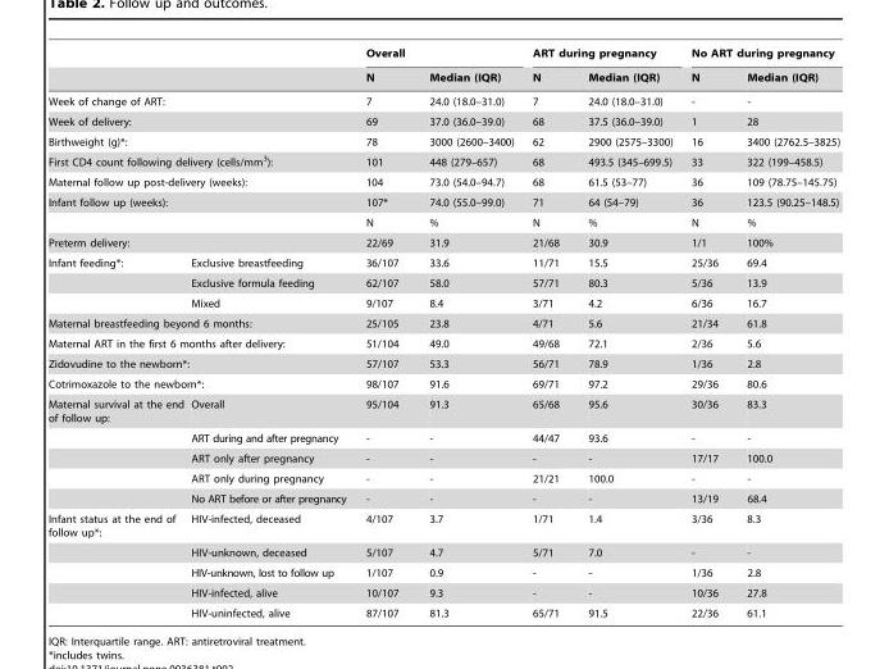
<table><thead><tr><td rowspan="2"></td><td rowspan="2"></td><td colspan="2">Overall</td><td colspan="2">ART during pregnancy</td><td colspan="2">No ART during pregnancy</td></tr><tr><td>N</td><td>Median (IQR)</td><td>N</td><td>Median (IQR)</td><td>N</td><td>Median (IQR)</td></tr></thead><tbody><tr><td colspan="2">Week of change of ART:</td><td>7</td><td>24.0 (18.0–31.0)</td><td>7</td><td>24.0 (18.0–31.0)</td><td>-</td><td>-</td></tr><tr><td colspan="2">Week of delivery:</td><td>69</td><td>37.0 (36.0–39.0)</td><td>68</td><td>37.5 (36.0–39.0)</td><td>1</td><td>28</td></tr><tr><td colspan="2">Birthweight (g)*:</td><td>78</td><td>3000 (2600–3400)</td><td>62</td><td>2900 (2575–3300)</td><td>16</td><td>3400 (2762.5–3825)</td></tr><tr><td colspan="2">First CD4 count following delivery (cells/mm<sup>3</sup>):</td><td>101</td><td>448 (279–657)</td><td>68</td><td>493.5 (345–699.5)</td><td>33</td><td>322 (199–458.5)</td></tr><tr><td colspan="2">Maternal follow up post-delivery (weeks):</td><td>104</td><td>73.0 (54.0–94.7)</td><td>68</td><td>61.5 (53–77)</td><td>36</td><td>109 (78.75–145.75)</td></tr><tr><td rowspan="2" colspan="2">Infant follow up (weeks):</td><td>107*</td><td>74.0 (55.0–99.0)</td><td>71</td><td>64 (54–79)</td><td>36</td><td>123.5 (90.25–148.5)</td></tr><tr><td>N</td><td>%</td><td>N</td><td>%</td><td>N</td><td>%</td></tr><tr><td colspan="2">Preterm delivery:</td><td>22/69</td><td>31.9</td><td>21/68</td><td>30.9</td><td>1/1</td><td>100%</td></tr><tr><td rowspan="3">Infant feeding*:</td><td>Exclusive breastfeeding</td><td>36/107</td><td>33.6</td><td>11/71</td><td>15.5</td><td>25/36</td><td>69.4</td></tr><tr><td>Exclusive formula feeding</td><td>62/107</td><td>58.0</td><td>57/71</td><td>80.3</td><td>5/36</td><td>13.9</td></tr><tr><td>Mixed</td><td>9/107</td><td>8.4</td><td>3/71</td><td>4.2</td><td>6/36</td><td>16.7</td></tr><tr><td colspan="2">Maternal breastfeeding beyond 6 months:</td><td>25/105</td><td>23.8</td><td>4/71</td><td>5.6</td><td>21/34</td><td>61.8</td></tr><tr><td colspan="2">Maternal ART in the first 6 months after delivery:</td><td>51/104</td><td>49.0</td><td>49/68</td><td>72.1</td><td>2/36</td><td>5.6</td></tr><tr><td colspan="2">Zidovudine to the newborn*:</td><td>57/107</td><td>53.3</td><td>56/71</td><td>78.9</td><td>1/36</td><td>2.8</td></tr><tr><td colspan="2">Cotrimoxazole to the newborn*:</td><td>98/107</td><td>91.6</td><td>69/71</td><td>97.2</td><td>29/36</td><td>80.6</td></tr><tr><td rowspan="5">Maternal survival at the end of follow up:</td><td>Overall</td><td>95/104</td><td>91.3</td><td>65/68</td><td>95.6</td><td>30/36</td><td>83.3</td></tr><tr><td>ART during and after pregnancy</td><td>-</td><td>-</td><td>44/47</td><td>93.6</td><td>-</td><td>-</td></tr><tr><td>ART only after pregnancy</td><td>-</td><td>-</td><td>-</td><td>-</td><td>17/17</td><td>100.0</td></tr><tr><td>ART only during pregnancy</td><td>-</td><td>-</td><td>21/21</td><td>100.0</td><td>-</td><td>-</td></tr><tr><td>No ART before or after pregnancy</td><td>-</td><td>-</td><td>-</td><td>-</td><td>13/19</td><td>68.4</td></tr><tr><td rowspan="5">Infant status at the end of follow up*:</td><td>HIV-infected, deceased</td><td>4/107</td><td>3.7</td><td>1/71</td><td>1.4</td><td>3/36</td><td>8.3</td></tr><tr><td>HIV-unknown, deceased</td><td>5/107</td><td>4.7</td><td>5/71</td><td>7.0</td><td>-</td><td>-</td></tr><tr><td>HIV-unknown, lost to follow up</td><td>1/107</td><td>0.9</td><td>-</td><td>-</td><td>1/36</td><td>2.8</td></tr><tr><td>HIV-infected, alive</td><td>10/107</td><td>9.3</td><td>-</td><td>-</td><td>10/36</td><td>27.8</td></tr><tr><td>HIV-uninfected, alive</td><td>87/107</td><td>81.3</td><td>65/71</td><td>91.5</td><td>22/36</td><td>61.1</td></tr></tbody></table>